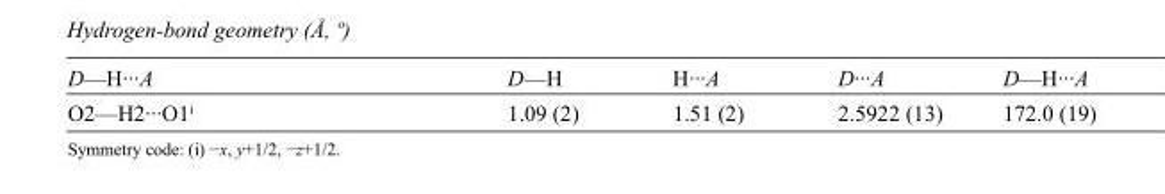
<table><tbody><tr><td>D—H···A</td><td>D—H</td><td>H···A</td><td>D···A</td><td>D—H···A</td></tr><tr><td>O2—H2···O1<sup>i</sup></td><td>1.09 (2)</td><td>1.51 (2)</td><td>2.5922 (13)</td><td>172.0 (19)</td></tr></tbody></table>